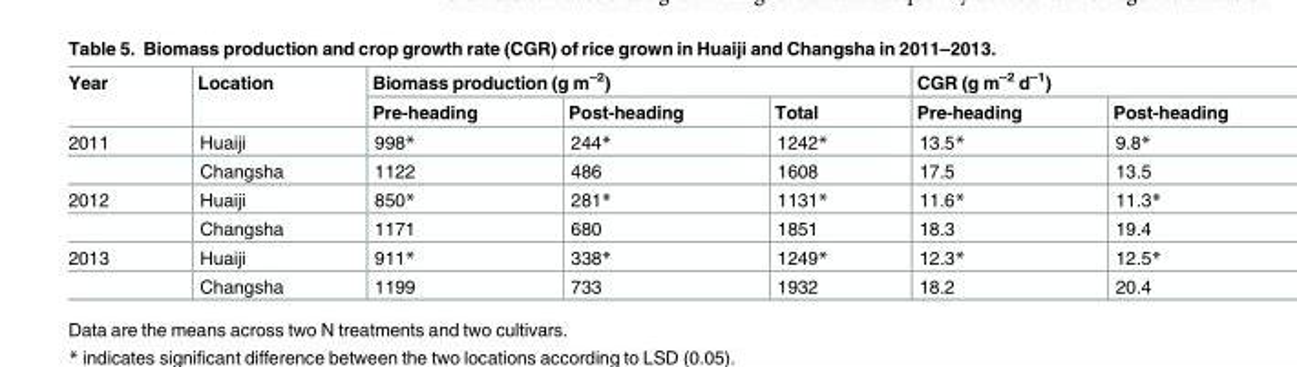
<table><thead><tr><td rowspan="2">Year</td><td rowspan="2">Location</td><td colspan="3">Biomass production (g m<sup>–2</sup>)</td><td colspan="2">CGR (g m<sup>–2</sup> d<sup>–1</sup>)</td></tr><tr><td>Pre-heading</td><td>Post-heading</td><td>Total</td><td>Pre-heading</td><td>Post-heading</td></tr></thead><tbody><tr><td rowspan="2">2011</td><td>Huaiji</td><td>998*</td><td>244*</td><td>1242*</td><td>13.5*</td><td>9.8*</td></tr><tr><td>Changsha</td><td>1122</td><td>486</td><td>1608</td><td>17.5</td><td>13.5</td></tr><tr><td rowspan="2">2012</td><td>Huaiji</td><td>850*</td><td>281*</td><td>1131*</td><td>11.6*</td><td>11.3*</td></tr><tr><td>Changsha</td><td>1171</td><td>680</td><td>1851</td><td>18.3</td><td>19.4</td></tr><tr><td rowspan="2">2013</td><td>Huaiji</td><td>911*</td><td>338*</td><td>1249*</td><td>12.3*</td><td>12.5*</td></tr><tr><td>Changsha</td><td>1199</td><td>733</td><td>1932</td><td>18.2</td><td>20.4</td></tr></tbody></table>